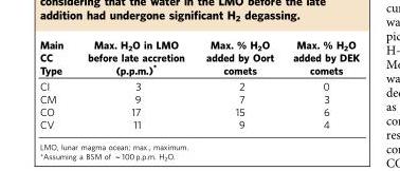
<table><thead><tr><td>Main CC Type</td><td>Max. H<sub>2</sub>O in LMO before late accretion (p.p.m.)*</td><td>Max. % H<sub>2</sub>O added by Oort comets</td><td>Max. % H<sub>2</sub>O added by DEK comets</td></tr></thead><tbody><tr><td>CI</td><td>3</td><td>2</td><td>0</td></tr><tr><td>CM</td><td>9</td><td>7</td><td>3</td></tr><tr><td>CO</td><td>17</td><td>15</td><td>6</td></tr><tr><td>CV</td><td>11</td><td>9</td><td>4</td></tr></tbody></table>